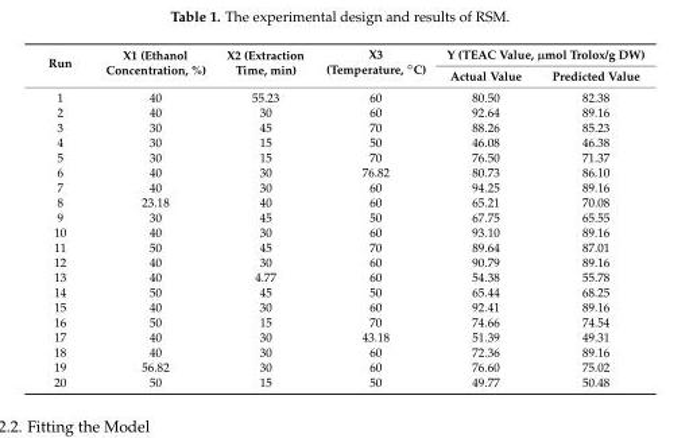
<table><thead><tr><td rowspan="2">Run</td><td rowspan="2">X1 (Ethanol Concentration, %)</td><td rowspan="2">X2 (Extraction Time, min)</td><td rowspan="2">X3 (Temperature, ◦C)</td><td colspan="2">Y (TEAC Value, µmol Trolox/g DW)</td></tr><tr><td>Actual Value</td><td>Predicted Value</td></tr></thead><tbody><tr><td>1</td><td>40</td><td>55.23</td><td>60</td><td>80.50</td><td>82.38</td></tr><tr><td>2</td><td>40</td><td>30</td><td>60</td><td>92.64</td><td>89.16</td></tr><tr><td>3</td><td>30</td><td>45</td><td>70</td><td>88.26</td><td>85.23</td></tr><tr><td>4</td><td>30</td><td>15</td><td>50</td><td>46.08</td><td>46.38</td></tr><tr><td>5</td><td>30</td><td>15</td><td>70</td><td>76.50</td><td>71.37</td></tr><tr><td>6</td><td>40</td><td>30</td><td>76.82</td><td>80.73</td><td>86.10</td></tr><tr><td>7</td><td>40</td><td>30</td><td>60</td><td>94.25</td><td>89.16</td></tr><tr><td>8</td><td>23.18</td><td>40</td><td>60</td><td>65.21</td><td>70.08</td></tr><tr><td>9</td><td>30</td><td>45</td><td>50</td><td>67.75</td><td>65.55</td></tr><tr><td>10</td><td>40</td><td>30</td><td>60</td><td>93.10</td><td>89.16</td></tr><tr><td>11</td><td>50</td><td>45</td><td>70</td><td>89.64</td><td>87.01</td></tr><tr><td>12</td><td>40</td><td>30</td><td>60</td><td>90.79</td><td>89.16</td></tr><tr><td>13</td><td>40</td><td>4.77</td><td>60</td><td>54.38</td><td>55.78</td></tr><tr><td>14</td><td>50</td><td>45</td><td>50</td><td>65.44</td><td>68.25</td></tr><tr><td>15</td><td>40</td><td>30</td><td>60</td><td>92.41</td><td>89.16</td></tr><tr><td>16</td><td>50</td><td>15</td><td>70</td><td>74.66</td><td>74.54</td></tr><tr><td>17</td><td>40</td><td>30</td><td>43.18</td><td>51.39</td><td>49.31</td></tr><tr><td>18</td><td>40</td><td>30</td><td>60</td><td>72.36</td><td>89.16</td></tr><tr><td>19</td><td>56.82</td><td>30</td><td>60</td><td>76.60</td><td>75.02</td></tr><tr><td>20</td><td>50</td><td>15</td><td>50</td><td>49.77</td><td>50.48</td></tr></tbody></table>